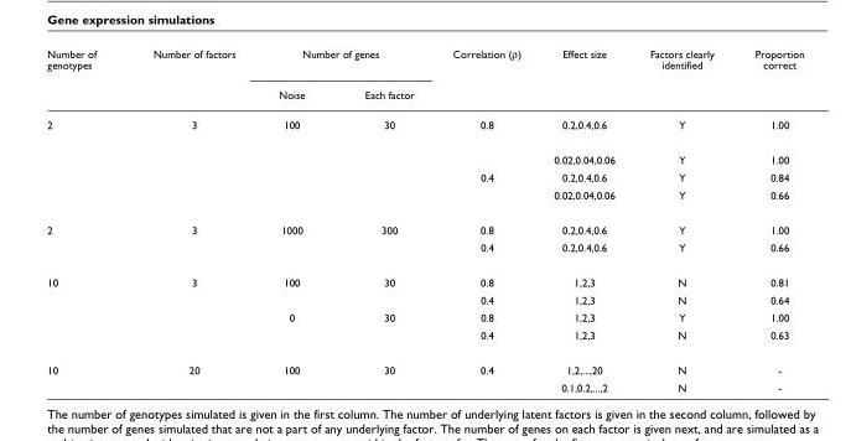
<table><thead><tr><td rowspan="2">Number of genotypes</td><td rowspan="2">Number of factors</td><td colspan="2">Number of genes</td><td rowspan="2">Correlation (ρ)</td><td rowspan="2">Effect size</td><td rowspan="2">Factors clearly identified</td><td rowspan="2">Proportion correct</td></tr><tr><td>Noise</td><td>Each factor</td></tr></thead><tbody><tr><td rowspan="4">2</td><td>3</td><td>100</td><td>30</td><td>0.8</td><td>0.2,0.4,0.6</td><td>Y</td><td>1.00</td></tr><tr><td></td><td></td><td></td><td></td><td>0.02,0.04,0.06</td><td>Y</td><td>1.00</td></tr><tr><td></td><td></td><td></td><td>0.4</td><td>0.2,0.4,0.6</td><td>Y</td><td>0.84</td></tr><tr><td></td><td></td><td></td><td></td><td>0.02,0.04,0.06</td><td>Y</td><td>0.66</td></tr><tr><td rowspan="2">2</td><td>3</td><td>1000</td><td>300</td><td>0.8</td><td>0.2,0.4,0.6</td><td>Y</td><td>1.00</td></tr><tr><td></td><td></td><td></td><td>0.4</td><td>0.2,0.4,0.6</td><td>Y</td><td>0.66</td></tr><tr><td rowspan="4">10</td><td>3</td><td>100</td><td>30</td><td>0.8</td><td>1,2,3</td><td>N</td><td>0.81</td></tr><tr><td></td><td></td><td></td><td>0.4</td><td>1,2,3</td><td>N</td><td>0.64</td></tr><tr><td></td><td>0</td><td>30</td><td>0.8</td><td>1,2,3</td><td>Y</td><td>1.00</td></tr><tr><td></td><td></td><td></td><td>0.4</td><td>1,2,3</td><td>N</td><td>0.63</td></tr><tr><td rowspan="2">10</td><td>20</td><td>100</td><td>30</td><td>0.4</td><td>1,2,...,20</td><td>N</td><td>-</td></tr><tr><td></td><td></td><td></td><td></td><td>0.1,0.2,...,2</td><td>N</td><td>-</td></tr></tbody></table>